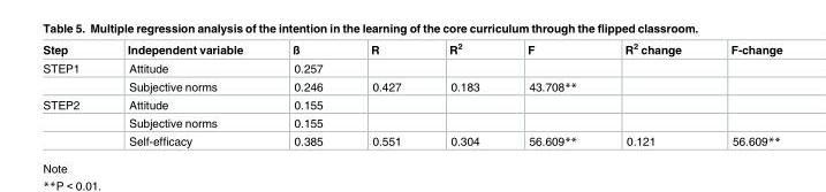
<table><thead><tr><td>Step</td><td>Independent variable</td><td>ß</td><td>R</td><td>R<sup>2</sup></td><td>F</td><td>R<sup>2</sup> change</td><td>F-change</td></tr></thead><tbody><tr><td rowspan="2">STEP1</td><td>Attitude</td><td>0.257</td><td></td><td></td><td></td><td></td><td></td></tr><tr><td>Subjective norms</td><td>0.246</td><td>0.427</td><td>0.183</td><td>43.708**</td><td></td><td></td></tr><tr><td rowspan="3">STEP2</td><td>Attitude</td><td>0.155</td><td></td><td></td><td></td><td></td><td></td></tr><tr><td>Subjective norms</td><td>0.155</td><td></td><td></td><td></td><td></td><td></td></tr><tr><td>Self-efficacy</td><td>0.385</td><td>0.551</td><td>0.304</td><td>56.609**</td><td>0.121</td><td>56.609**</td></tr></tbody></table>